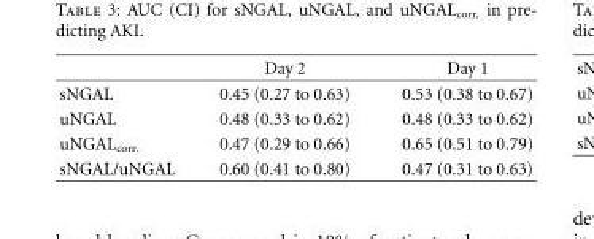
<table><thead><tr><td></td><td>Day 2</td><td>Day 1</td></tr></thead><tbody><tr><td>sNGAL</td><td>0.45 (0.27 to 0.63)</td><td>0.53 (0.38 to 0.67)</td></tr><tr><td>uNGAL</td><td>0.48 (0.33 to 0.62)</td><td>0.48 (0.33 to 0.62)</td></tr><tr><td>uNGAL<sub>corr.</sub></td><td>0.47 (0.29 to 0.66)</td><td>0.65 (0.51 to 0.79)</td></tr><tr><td>sNGAL/uNGAL</td><td>0.60 (0.41 to 0.80)</td><td>0.47 (0.31 to 0.63)</td></tr></tbody></table>